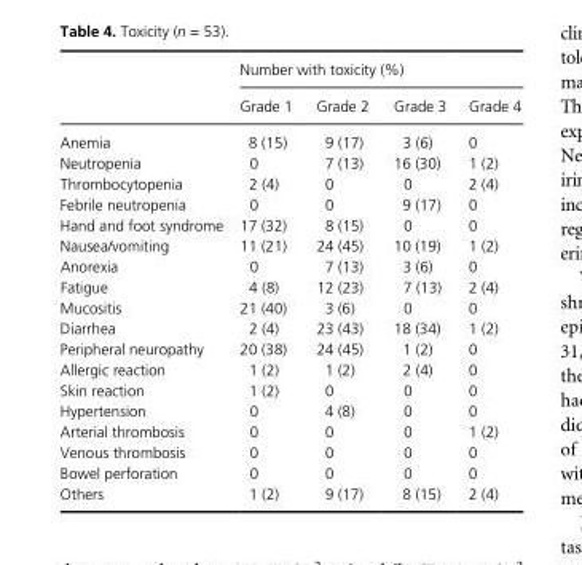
<table><thead><tr><td rowspan="2"></td><td colspan="4">Number with toxicity (%)</td></tr><tr><td>Grade 1</td><td>Grade 2</td><td>Grade 3</td><td>Grade 4</td></tr></thead><tbody><tr><td>Anemia</td><td>8 (15)</td><td>9 (17)</td><td>3 (6)</td><td>0</td></tr><tr><td>Neutropenia</td><td>0</td><td>7 (13)</td><td>16 (30)</td><td>1 (2)</td></tr><tr><td>Thrombocytopenia</td><td>2 (4)</td><td>0</td><td>0</td><td>2 (4)</td></tr><tr><td>Febrile neutropenia</td><td>0</td><td>0</td><td>9 (17)</td><td>0</td></tr><tr><td>Hand and foot syndrome</td><td>17 (32)</td><td>8 (15)</td><td>0</td><td>0</td></tr><tr><td>Nausea/vomiting</td><td>11 (21)</td><td>24 (45)</td><td>10 (19)</td><td>1 (2)</td></tr><tr><td>Anorexia</td><td>0</td><td>7 (13)</td><td>3 (6)</td><td>0</td></tr><tr><td>Fatigue</td><td>4 (8)</td><td>12 (23)</td><td>7 (13)</td><td>2 (4)</td></tr><tr><td>Mucositis</td><td>21 (40)</td><td>3 (6)</td><td>0</td><td>0</td></tr><tr><td>Diarrhea</td><td>2 (4)</td><td>23 (43)</td><td>18 (34)</td><td>1 (2)</td></tr><tr><td>Peripheral neuropathy</td><td>20 (38)</td><td>24 (45)</td><td>1 (2)</td><td>0</td></tr><tr><td>Allergic reaction</td><td>1 (2)</td><td>1 (2)</td><td>2 (4)</td><td>0</td></tr><tr><td>Skin reaction</td><td>1 (2)</td><td>0</td><td>0</td><td>0</td></tr><tr><td>Hypertension</td><td>0</td><td>4 (8)</td><td>0</td><td>0</td></tr><tr><td>Arterial thrombosis</td><td>0</td><td>0</td><td>0</td><td>1 (2)</td></tr><tr><td>Venous thrombosis</td><td>0</td><td>0</td><td>0</td><td>0</td></tr><tr><td>Bowel perforation</td><td>0</td><td>0</td><td>0</td><td>0</td></tr><tr><td>Others</td><td>1 (2)</td><td>9 (17)</td><td>8 (15)</td><td>2 (4)</td></tr></tbody></table>